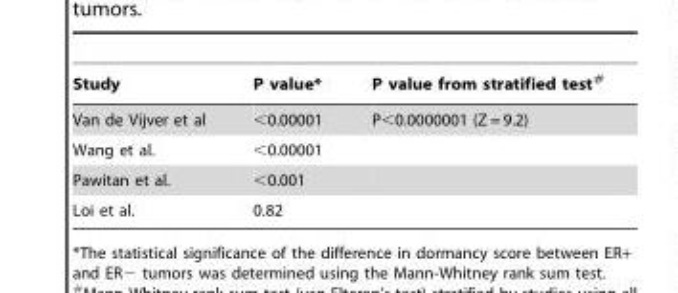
<table><thead><tr><td>Study</td><td>P value*</td><td>P value from stratified test#</td></tr></thead><tbody><tr><td>Van de Vijver et al</td><td>&lt;0.00001</td><td>P&lt;0.0000001 (Z = 9.2)</td></tr><tr><td>Wang et al.</td><td>&lt;0.00001</td><td></td></tr><tr><td>Pawitan et al.</td><td>&lt;0.001</td><td></td></tr><tr><td>Loi et al.</td><td>0.82</td><td></td></tr></tbody></table>